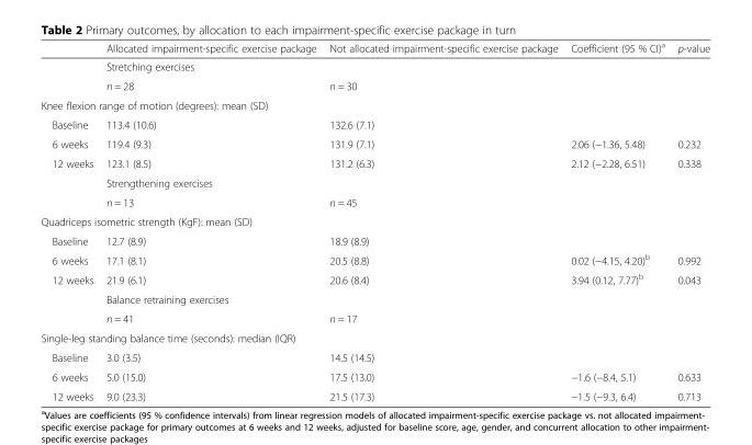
<table><thead><tr><td></td><td>Allocated impairment-specific exercise package</td><td>Not allocated impairment-specific exercise package</td><td>Coefficient (95 % CI)<sup>a</sup></td><td>p-value</td></tr></thead><tbody><tr><td></td><td colspan="2">Stretching exercises</td><td></td><td></td></tr><tr><td></td><td>n = 28</td><td>n = 30</td><td></td><td></td></tr><tr><td colspan="5">Knee flexion range of motion (degrees): mean (SD)</td></tr><tr><td>Baseline</td><td>113.4 (10.6)</td><td>132.6 (7.1)</td><td></td><td></td></tr><tr><td>6 weeks</td><td>119.4 (9.3)</td><td>131.9 (7.1)</td><td>2.06 (−1.36, 5.48)</td><td>0.232</td></tr><tr><td rowspan="3">12 weeks</td><td>123.1 (8.5)</td><td>131.2 (6.3)</td><td>2.12 (−2.28, 6.51)</td><td>0.338</td></tr><tr><td colspan="2">Strengthening exercises</td><td></td><td></td></tr><tr><td>n = 13</td><td>n = 45</td><td></td><td></td></tr><tr><td colspan="5">Quadriceps isometric strength (KgF): mean (SD)</td></tr><tr><td>Baseline</td><td>12.7 (8.9)</td><td>18.9 (8.9)</td><td></td><td></td></tr><tr><td>6 weeks</td><td>17.1 (8.1)</td><td>20.5 (8.8)</td><td>0.02 (−4.15, 4.20)<sup>b</sup></td><td>0.992</td></tr><tr><td rowspan="3">12 weeks</td><td>21.9 (6.1)</td><td>20.6 (8.4)</td><td>3.94 (0.12, 7.77)<sup>b</sup></td><td>0.043</td></tr><tr><td colspan="2">Balance retraining exercises</td><td></td><td></td></tr><tr><td>n = 41</td><td>n = 17</td><td></td><td></td></tr><tr><td colspan="5">Single-leg standing balance time (seconds): median (IQR)</td></tr><tr><td>Baseline</td><td>3.0 (3.5)</td><td>14.5 (14.5)</td><td></td><td></td></tr><tr><td>6 weeks</td><td>5.0 (15.0)</td><td>17.5 (13.0)</td><td>−1.6 (−8.4, 5.1)</td><td>0.633</td></tr><tr><td>12 weeks</td><td>9.0 (23.3)</td><td>21.5 (17.3)</td><td>−1.5 (−9.3, 6.4)</td><td>0.713</td></tr></tbody></table>